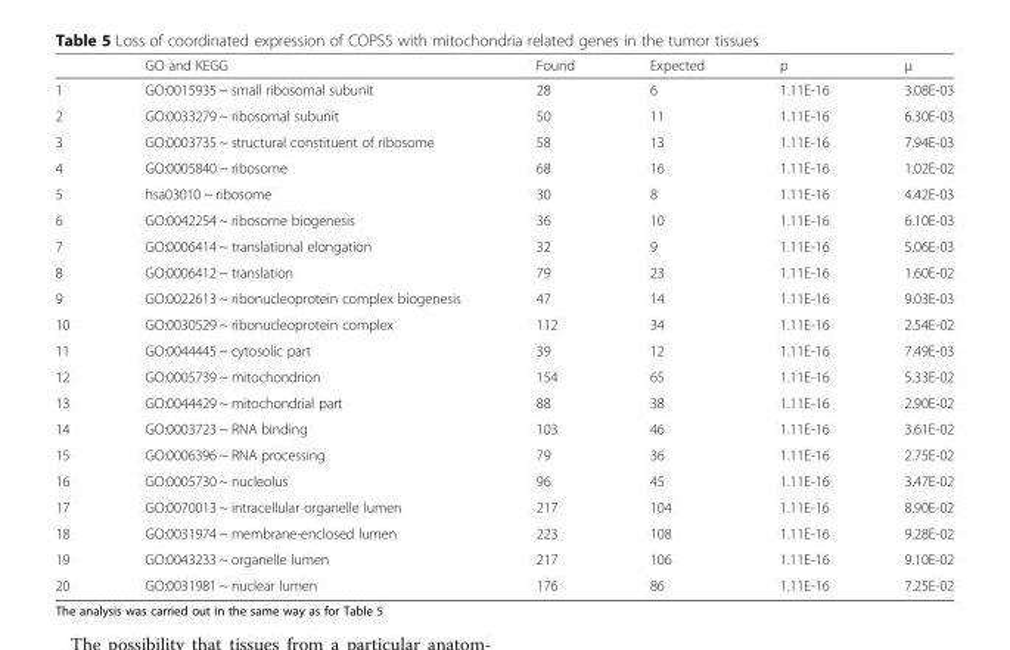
<table><thead><tr><td></td><td>GO and KEGG</td><td>Found</td><td>Expected</td><td>p</td><td>μ</td></tr></thead><tbody><tr><td>1</td><td>GO:0015935 ~ small ribosomal subunit</td><td>28</td><td>6</td><td>1.11E-16</td><td>3.08E-03</td></tr><tr><td>2</td><td>GO:0033279 ~ ribosomal subunit</td><td>50</td><td>11</td><td>1.11E-16</td><td>6.30E-03</td></tr><tr><td>3</td><td>GO:0003735 ~ structural constituent of ribosome</td><td>58</td><td>13</td><td>1.11E-16</td><td>7.94E-03</td></tr><tr><td>4</td><td>GO:0005840 ~ ribosome</td><td>68</td><td>16</td><td>1.11E-16</td><td>1.02E-02</td></tr><tr><td>5</td><td>hsa03010 ~ ribosome</td><td>30</td><td>8</td><td>1.11E-16</td><td>4.42E-03</td></tr><tr><td>6</td><td>GO:0042254 ~ ribosome biogenesis</td><td>36</td><td>10</td><td>1.11E-16</td><td>6.10E-03</td></tr><tr><td>7</td><td>GO:0006414 ~ translational elongation</td><td>32</td><td>9</td><td>1.11E-16</td><td>5.06E-03</td></tr><tr><td>8</td><td>GO:0006412 ~ translation</td><td>79</td><td>23</td><td>1.11E-16</td><td>1.60E-02</td></tr><tr><td>9</td><td>GO:0022613 ~ ribonucleoprotein complex biogenesis</td><td>47</td><td>14</td><td>1.11E-16</td><td>9.03E-03</td></tr><tr><td>10</td><td>GO:0030529 ~ ribonucleoprotein complex</td><td>112</td><td>34</td><td>1.11E-16</td><td>2.54E-02</td></tr><tr><td>11</td><td>GO:0044445 ~ cytosolic part</td><td>39</td><td>12</td><td>1.11E-16</td><td>7.49E-03</td></tr><tr><td>12</td><td>GO:0005739 ~ mitochondrion</td><td>154</td><td>65</td><td>1.11E-16</td><td>5.33E-02</td></tr><tr><td>13</td><td>GO:0044429 ~ mitochondrial part</td><td>88</td><td>38</td><td>1.11E-16</td><td>2.90E-02</td></tr><tr><td>14</td><td>GO:0003723 ~ RNA binding</td><td>103</td><td>46</td><td>1.11E-16</td><td>3.61E-02</td></tr><tr><td>15</td><td>GO:0006396 ~ RNA processing</td><td>79</td><td>36</td><td>1.11E-16</td><td>2.75E-02</td></tr><tr><td>16</td><td>GO:0005730 ~ nucleolus</td><td>96</td><td>45</td><td>1.11E-16</td><td>3.47E-02</td></tr><tr><td>17</td><td>GO:0070013 ~ intracellular organelle lumen</td><td>217</td><td>104</td><td>1.11E-16</td><td>8.90E-02</td></tr><tr><td>18</td><td>GO:0031974 ~ membrane-enclosed lumen</td><td>223</td><td>108</td><td>1.11E-16</td><td>9.28E-02</td></tr><tr><td>19</td><td>GO:0043233 ~ organelle lumen</td><td>217</td><td>106</td><td>1.11E-16</td><td>9.10E-02</td></tr><tr><td>20</td><td>GO:0031981 ~ nuclear lumen</td><td>176</td><td>86</td><td>1.11E-16</td><td>7.25E-02</td></tr></tbody></table>